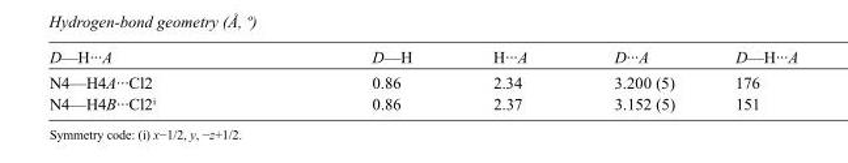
<table><tbody><tr><td>D—H···A</td><td>D—H</td><td>H···A</td><td>D···A</td><td>D—H···A</td></tr><tr><td>N4—H4A···Cl2</td><td>0.86</td><td>2.34</td><td>3.200 (5)</td><td>176</td></tr><tr><td>N4—H4B···Cl2<sup>i</sup></td><td>0.86</td><td>2.37</td><td>3.152 (5)</td><td>151</td></tr></tbody></table>